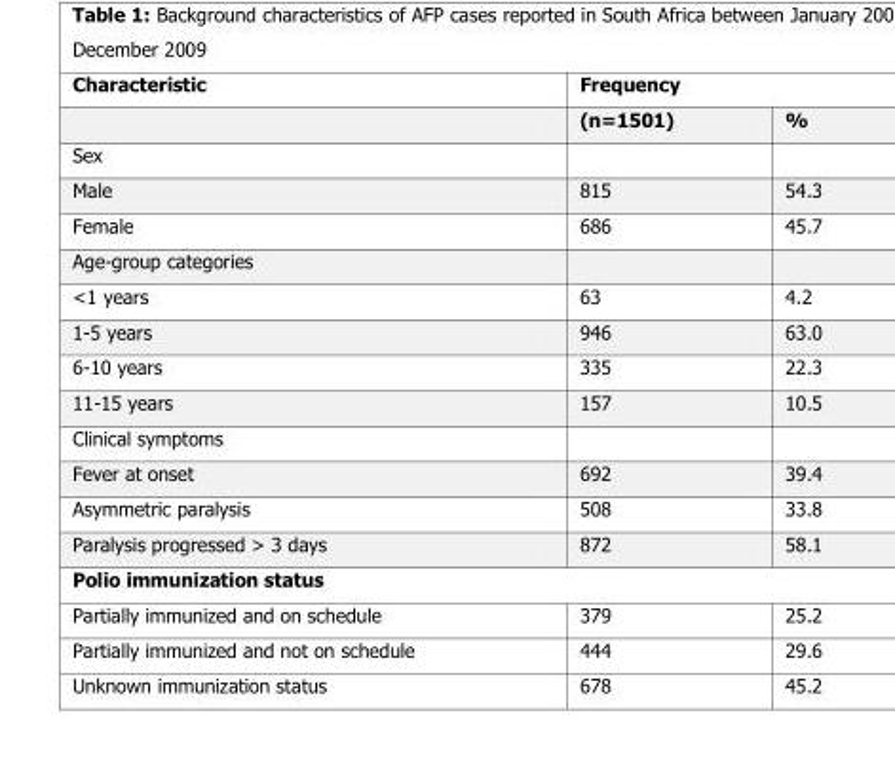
<table><thead><tr><td rowspan="2">Characteristic</td><td colspan="2">Frequency</td></tr><tr><td>(n=1501)</td><td>%</td></tr></thead><tbody><tr><td colspan="3">Sex</td></tr><tr><td>Male</td><td>815</td><td>54.3</td></tr><tr><td>Female</td><td>686</td><td>45.7</td></tr><tr><td colspan="3">Age-group categories</td></tr><tr><td>&lt;1 years</td><td>63</td><td>4.2</td></tr><tr><td>1-5 years</td><td>946</td><td>63.0</td></tr><tr><td>6-10 years</td><td>335</td><td>22.3</td></tr><tr><td>11-15 years</td><td>157</td><td>10.5</td></tr><tr><td colspan="3">Clinical symptoms</td></tr><tr><td>Fever at onset</td><td>692</td><td>39.4</td></tr><tr><td>Asymmetric paralysis</td><td>508</td><td>33.8</td></tr><tr><td>Paralysis progressed &gt; 3 days</td><td>872</td><td>58.1</td></tr><tr><td colspan="3">Polio immunization status</td></tr><tr><td>Partially immunized and on schedule</td><td>379</td><td>25.2</td></tr><tr><td>Partially immunized and not on schedule</td><td>444</td><td>29.6</td></tr><tr><td>Unknown immunization status</td><td>678</td><td>45.2</td></tr></tbody></table>